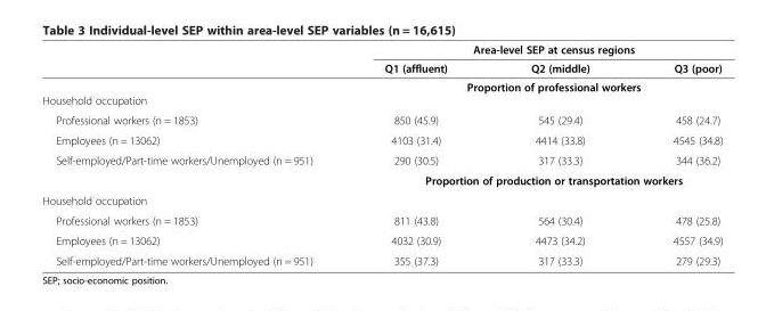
<table><thead><tr><td rowspan="3"></td><td colspan="3">Area-level SEP at census regions</td></tr><tr><td>Q1 (affluent)</td><td>Q2 (middle)</td><td>Q3 (poor)</td></tr><tr><td colspan="3">Proportion of professional workers</td></tr></thead><tbody><tr><td colspan="4">Household occupation</td></tr><tr><td>Professional workers (n = 1853)</td><td>850 (45.9)</td><td>545 (29.4)</td><td>458 (24.7)</td></tr><tr><td>Employees (n = 13062)</td><td>4103 (31.4)</td><td>4414 (33.8)</td><td>4545 (34.8)</td></tr><tr><td rowspan="2">Self-employed/Part-time workers/Unemployed (n = 951)</td><td>290 (30.5)</td><td>317 (33.3)</td><td>344 (36.2)</td></tr><tr><td colspan="3">Proportion of production or transportation workers</td></tr><tr><td colspan="4">Household occupation</td></tr><tr><td>Professional workers (n = 1853)</td><td>811 (43.8)</td><td>564 (30.4)</td><td>478 (25.8)</td></tr><tr><td>Employees (n = 13062)</td><td>4032 (30.9)</td><td>4473 (34.2)</td><td>4557 (34.9)</td></tr><tr><td>Self-employed/Part-time workers/Unemployed (n = 951)</td><td>355 (37.3)</td><td>317 (33.3)</td><td>279 (29.3)</td></tr></tbody></table>